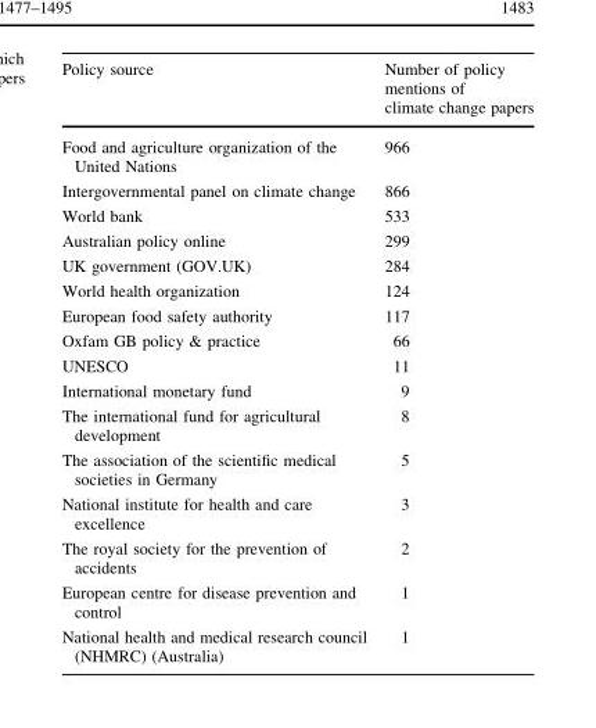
<table><thead><tr><td>Policy source</td><td>Number of policy mentions of climate change papers</td></tr></thead><tbody><tr><td>Food and agriculture organization of the United Nations</td><td>966</td></tr><tr><td>Intergovernmental panel on climate change</td><td>866</td></tr><tr><td>World bank</td><td>533</td></tr><tr><td>Australian policy online</td><td>299</td></tr><tr><td>UK government (GOV.UK)</td><td>284</td></tr><tr><td>World health organization</td><td>124</td></tr><tr><td>European food safety authority</td><td>117</td></tr><tr><td>Oxfam GB policy &amp; practice</td><td>66</td></tr><tr><td>UNESCO</td><td>11</td></tr><tr><td>International monetary fund</td><td>9</td></tr><tr><td>The international fund for agricultural development</td><td>8</td></tr><tr><td>The association of the scientific medical societies in Germany</td><td>5</td></tr><tr><td>National institute for health and care excellence</td><td>3</td></tr><tr><td>The royal society for the prevention of accidents</td><td>2</td></tr><tr><td>European centre for disease prevention and control</td><td>1</td></tr><tr><td>National health and medical research council (NHMRC) (Australia)</td><td>1</td></tr></tbody></table>